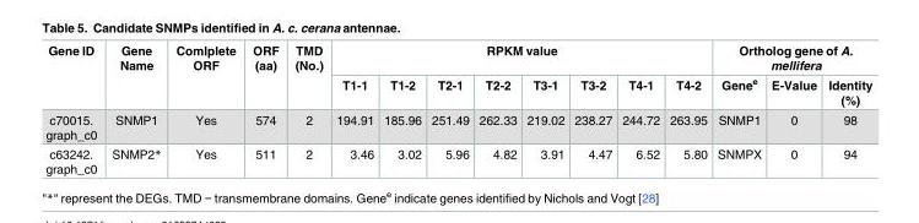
<table><thead><tr><td rowspan="2">Gene ID</td><td rowspan="2">Gene Name</td><td rowspan="2">Comlplete ORF</td><td rowspan="2">ORF (aa)</td><td rowspan="2">TMD (No.)</td><td colspan="8">RPKM value</td><td colspan="3">Ortholog gene of A. mellifera</td></tr><tr><td>T1-1</td><td>T1-2</td><td>T2-1</td><td>T2-2</td><td>T3-1</td><td>T3-2</td><td>T4-1</td><td>T4-2</td><td>Gene<sup>e</sup></td><td>E-Value</td><td>Identity (%)</td></tr></thead><tbody><tr><td>c70015. graph_c0</td><td>SNMP1</td><td>Yes</td><td>574</td><td>2</td><td>194.91</td><td>185.96</td><td>251.49</td><td>262.33</td><td>219.02</td><td>238.27</td><td>244.72</td><td>263.95</td><td>SNMP1</td><td>0</td><td>98</td></tr><tr><td>c63242. graph_c0</td><td>SNMP2*</td><td>Yes</td><td>511</td><td>2</td><td>3.46</td><td>3.02</td><td>5.96</td><td>4.82</td><td>3.91</td><td>4.47</td><td>6.52</td><td>5.80</td><td>SNMPX</td><td>0</td><td>94</td></tr></tbody></table>